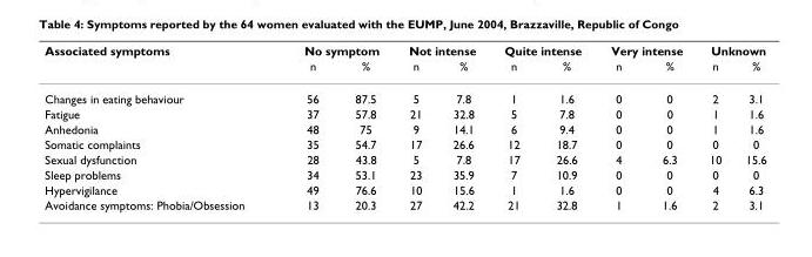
<table><thead><tr><td rowspan="2">Associated symptoms</td><td colspan="2">No symptom</td><td colspan="2">Not intense</td><td colspan="2">Quite intense</td><td colspan="2">Very intense</td><td colspan="2">Unknown</td></tr><tr><td>n</td><td>%</td><td>n</td><td>%</td><td>n</td><td>%</td><td>n</td><td>%</td><td>n</td><td>%</td></tr></thead><tbody><tr><td>Changes in eating behaviour</td><td>56</td><td>87.5</td><td>5</td><td>7.8</td><td>1</td><td>1.6</td><td>0</td><td>0</td><td>2</td><td>3.1</td></tr><tr><td>Fatigue</td><td>37</td><td>57.8</td><td>21</td><td>32.8</td><td>5</td><td>7.8</td><td>0</td><td>0</td><td>1</td><td>1.6</td></tr><tr><td>Anhedonia</td><td>48</td><td>75</td><td>9</td><td>14.1</td><td>6</td><td>9.4</td><td>0</td><td>0</td><td>1</td><td>1.6</td></tr><tr><td>Somatic complaints</td><td>35</td><td>54.7</td><td>17</td><td>26.6</td><td>12</td><td>18.7</td><td>0</td><td>0</td><td>0</td><td>0</td></tr><tr><td>Sexual dysfunction</td><td>28</td><td>43.8</td><td>5</td><td>7.8</td><td>17</td><td>26.6</td><td>4</td><td>6.3</td><td>10</td><td>15.6</td></tr><tr><td>Sleep problems</td><td>34</td><td>53.1</td><td>23</td><td>35.9</td><td>7</td><td>10.9</td><td>0</td><td>0</td><td>0</td><td>0</td></tr><tr><td>Hypervigilance</td><td>49</td><td>76.6</td><td>10</td><td>15.6</td><td>1</td><td>1.6</td><td>0</td><td>0</td><td>4</td><td>6.3</td></tr><tr><td>Avoidance symptoms: Phobia/Obsession</td><td>13</td><td>20.3</td><td>27</td><td>42.2</td><td>21</td><td>32.8</td><td>1</td><td>1.6</td><td>2</td><td>3.1</td></tr></tbody></table>